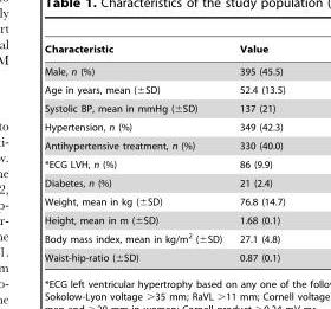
<table><thead><tr><td>Characteristic</td><td>Value</td></tr></thead><tbody><tr><td>Male, n (%)</td><td>395 (45.5)</td></tr><tr><td>Age in years, mean (±SD)</td><td>52.4 (13.5)</td></tr><tr><td>Systolic BP, mean in mmHg (±SD)</td><td>137 (21)</td></tr><tr><td>Hypertension, n (%)</td><td>349 (42.3)</td></tr><tr><td>Antihypertensive treatment, n (%)</td><td>330 (40.0)</td></tr><tr><td>*ECG LVH, n (%)</td><td>86 (9.9)</td></tr><tr><td>Diabetes, n (%)</td><td>21 (2.4)</td></tr><tr><td>Weight, mean in kg (±SD)</td><td>76.8 (14.7)</td></tr><tr><td>Height, mean in m (±SD)</td><td>1.68 (0.1)</td></tr><tr><td>Body mass index, mean in kg/m<sup>2</sup> (±SD)</td><td>27.1 (4.8)</td></tr><tr><td>Waist-hip-ratio (±SD)</td><td>0.87 (0.1)</td></tr></tbody></table>